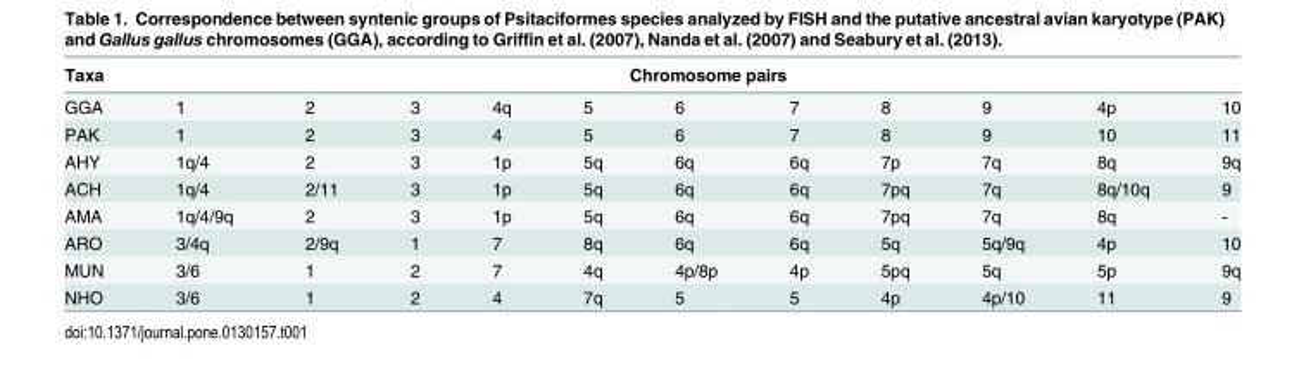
<table><thead><tr><td rowspan="2">Taxa GGA</td><td colspan="11">Chromosome pairs</td></tr><tr><td>1</td><td>2</td><td>3</td><td>4q</td><td>5</td><td>6</td><td>7</td><td>8</td><td>9</td><td>4p</td><td>10</td></tr></thead><tbody><tr><td>PAK</td><td>1</td><td>2</td><td>3</td><td>4</td><td>5</td><td>6</td><td>7</td><td>8</td><td>9</td><td>10</td><td>11</td></tr><tr><td>AHY</td><td>1q/4</td><td>2</td><td>3</td><td>1p</td><td>5q</td><td>6q</td><td>6q</td><td>7p</td><td>7q</td><td>8q</td><td>9q</td></tr><tr><td>ACH</td><td>1q/4</td><td>2/11</td><td>3</td><td>1p</td><td>5q</td><td>6q</td><td>6q</td><td>7pq</td><td>7q</td><td>8q/10q</td><td>9</td></tr><tr><td>AMA</td><td>1q/4/9q</td><td>2</td><td>3</td><td>1p</td><td>5q</td><td>6q</td><td>6q</td><td>7pq</td><td>7q</td><td>8q</td><td>-</td></tr><tr><td>ARO</td><td>3/4q</td><td>2/9q</td><td>1</td><td>7</td><td>8q</td><td>6q</td><td>6q</td><td>5q</td><td>5q/9q</td><td>4p</td><td>10</td></tr><tr><td>MUN</td><td>3/6</td><td>1</td><td>2</td><td>7</td><td>4q</td><td>4p/8p</td><td>4p</td><td>5pq</td><td>5q</td><td>5p</td><td>9q</td></tr><tr><td>NHO</td><td>3/6</td><td>1</td><td>2</td><td>4</td><td>7q</td><td>5</td><td>5</td><td>4p</td><td>4p/10</td><td>11</td><td>9</td></tr></tbody></table>